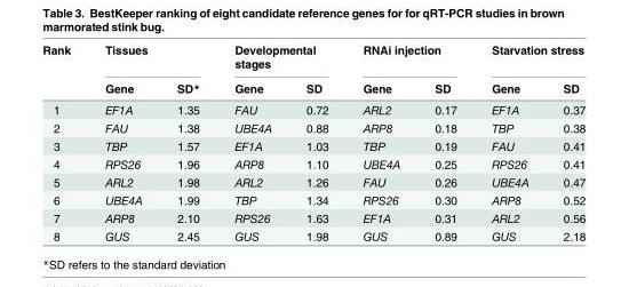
<table><thead><tr><td rowspan="2">Rank</td><td colspan="2">Tissues</td><td colspan="2">Developmental stages</td><td colspan="2">RNAi injection</td><td colspan="2">Starvation stress</td></tr><tr><td>Gene</td><td>SD*</td><td>Gene</td><td>SD</td><td>Gene</td><td>SD</td><td>Gene</td><td>SD</td></tr></thead><tbody><tr><td>1</td><td>EF1A</td><td>1.35</td><td>FAU</td><td>0.72</td><td>ARL2</td><td>0.17</td><td>EF1A</td><td>0.37</td></tr><tr><td>2</td><td>FAU</td><td>1.38</td><td>UBE4A</td><td>0.88</td><td>ARP8</td><td>0.18</td><td>TBP</td><td>0.38</td></tr><tr><td>3</td><td>TBP</td><td>1.57</td><td>EF1A</td><td>1.03</td><td>TBP</td><td>0.19</td><td>FAU</td><td>0.41</td></tr><tr><td>4</td><td>RPS26</td><td>1.96</td><td>ARP8</td><td>1.10</td><td>UBE4A</td><td>0.25</td><td>RPS26</td><td>0.41</td></tr><tr><td>5</td><td>ARL2</td><td>1.98</td><td>ARL2</td><td>1.26</td><td>FAU</td><td>0.26</td><td>UBE4A</td><td>0.47</td></tr><tr><td>6</td><td>UBE4A</td><td>1.99</td><td>TBP</td><td>1.34</td><td>RPS26</td><td>0.30</td><td>ARP8</td><td>0.52</td></tr><tr><td>7</td><td>ARP8</td><td>2.10</td><td>RPS26</td><td>1.63</td><td>EF1A</td><td>0.31</td><td>ARL2</td><td>0.56</td></tr><tr><td>8</td><td>GUS</td><td>2.45</td><td>GUS</td><td>1.98</td><td>GUS</td><td>0.89</td><td>GUS</td><td>2.18</td></tr></tbody></table>